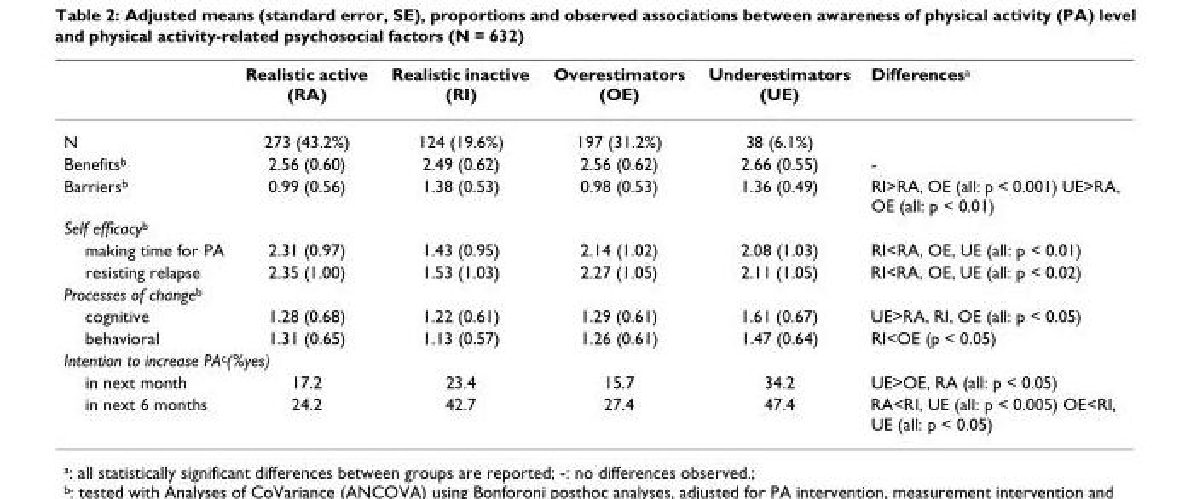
<table><thead><tr><td></td><td>Realistic active (RA)</td><td>Realistic inactive (RI)</td><td>Overestimators (OE)</td><td>Underestimators (UE)</td><td>Differences<sup>a</sup></td></tr></thead><tbody><tr><td>N</td><td>273 (43.2%)</td><td>124 (19.6%)</td><td>197 (31.2%)</td><td>38 (6.1%)</td><td></td></tr><tr><td>Benefits<sup>b</sup></td><td>2.56 (0.60)</td><td>2.49 (0.62)</td><td>2.56 (0.62)</td><td>2.66 (0.55)</td><td>-</td></tr><tr><td>Barriers<sup>b</sup></td><td>0.99 (0.56)</td><td>1.38 (0.53)</td><td>0.98 (0.53)</td><td>1.36 (0.49)</td><td>RI&gt;RA, OE (all: p &lt; 0.001) UE&gt;RA, OE (all: p &lt; 0.01)</td></tr><tr><td colspan="6">Self efficacy<sup>b</sup></td></tr><tr><td>making time for PA</td><td>2.31 (0.97)</td><td>1.43 (0.95)</td><td>2.14 (1.02)</td><td>2.08 (1.03)</td><td>RI&lt;RA, OE, UE (all: p &lt; 0.01)</td></tr><tr><td>resisting relapse</td><td>2.35 (1.00)</td><td>1.53 (1.03)</td><td>2.27 (1.05)</td><td>2.11 (1.05)</td><td>RI&lt;RA, OE, UE (all: p &lt; 0.02)</td></tr><tr><td colspan="6">Processes of change<sup>b</sup></td></tr><tr><td>cognitive</td><td>1.28 (0.68)</td><td>1.22 (0.61)</td><td>1.29 (0.61)</td><td>1.61 (0.67)</td><td>UE&gt;RA, RI, OE (all: p &lt; 0.05)</td></tr><tr><td>behavioral</td><td>1.31 (0.65)</td><td>1.13 (0.57)</td><td>1.26 (0.61)</td><td>1.47 (0.64)</td><td>RI&lt;OE (p &lt; 0.05)</td></tr><tr><td colspan="6">Intention to increase PA<sup>c</sup>(%yes)</td></tr><tr><td>in next month</td><td>17.2</td><td>23.4</td><td>15.7</td><td>34.2</td><td>UE&gt;OE, RA (all: p &lt; 0.05)</td></tr><tr><td>in next 6 months</td><td>24.2</td><td>42.7</td><td>27.4</td><td>47.4</td><td>RA&lt;RI, UE (all: p &lt; 0.005) OE&lt;RI, UE (all: p &lt; 0.05)</td></tr></tbody></table>